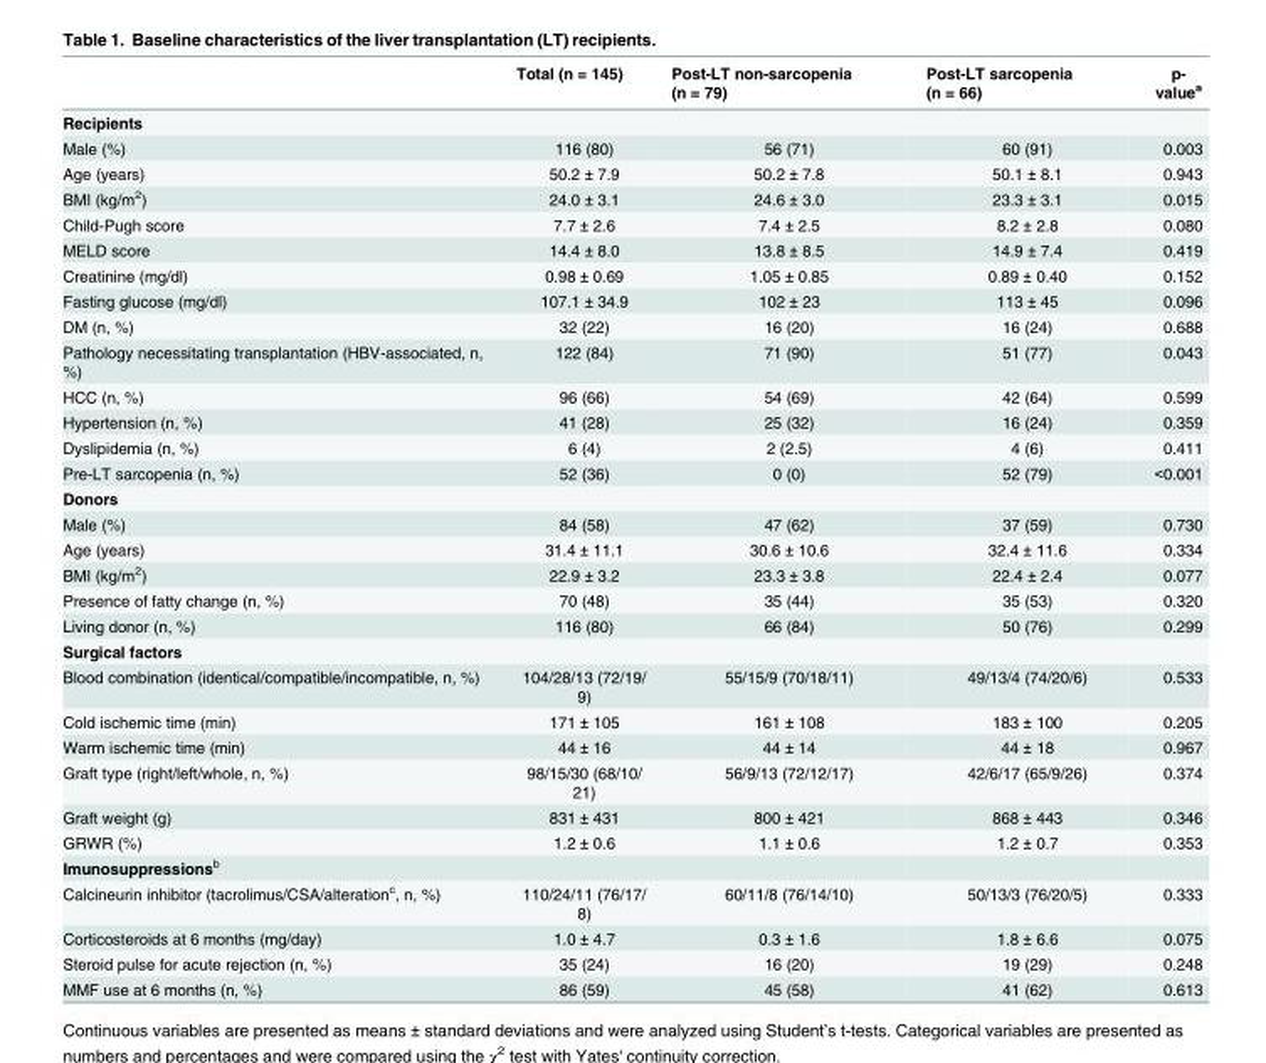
<table><thead><tr><td></td><td>Total (n = 145)</td><td>Post-LT non-sarcopenia (n = 79)</td><td>Post-LT sarcopenia (n = 66)</td><td>p- value<sup>a</sup></td></tr></thead><tbody><tr><td colspan="5">Recipients</td></tr><tr><td>Male (%)</td><td>116 (80)</td><td>56 (71)</td><td>60 (91)</td><td>0.003</td></tr><tr><td>Age (years)</td><td>50.2 ± 7.9</td><td>50.2 ± 7.8</td><td>50.1 ± 8.1</td><td>0.943</td></tr><tr><td>BMI (kg/m<sup>2</sup>)</td><td>24.0 ± 3.1</td><td>24.6 ± 3.0</td><td>23.3 ± 3.1</td><td>0.015</td></tr><tr><td>Child-Pugh score</td><td>7.7 ± 2.6</td><td>7.4 ± 2.5</td><td>8.2 ± 2.8</td><td>0.080</td></tr><tr><td>MELD score</td><td>14.4 ± 8.0</td><td>13.8 ± 8.5</td><td>14.9 ± 7.4</td><td>0.419</td></tr><tr><td>Creatinine (mg/dl)</td><td>0.98 ± 0.69</td><td>1.05 ± 0.85</td><td>0.89 ± 0.40</td><td>0.152</td></tr><tr><td>Fasting glucose (mg/dl)</td><td>107.1 ± 34.9</td><td>102 ± 23</td><td>113 ± 45</td><td>0.096</td></tr><tr><td>DM (n, %)</td><td>32 (22)</td><td>16 (20)</td><td>16 (24)</td><td>0.688</td></tr><tr><td>Pathology necessitating transplantation (HBV-associated, n, %)</td><td>122 (84)</td><td>71 (90)</td><td>51 (77)</td><td>0.043</td></tr><tr><td>HCC (n, %)</td><td>96 (66)</td><td>54 (69)</td><td>42 (64)</td><td>0.599</td></tr><tr><td>Hypertension (n, %)</td><td>41 (28)</td><td>25 (32)</td><td>16 (24)</td><td>0.359</td></tr><tr><td>Dyslipidemia (n, %)</td><td>6 (4)</td><td>2 (2.5)</td><td>4 (6)</td><td>0.411</td></tr><tr><td>Pre-LT sarcopenia (n, %)</td><td>52 (36)</td><td>0 (0)</td><td>52 (79)</td><td>&lt;0.001</td></tr><tr><td colspan="5">Donors</td></tr><tr><td>Male (%)</td><td>84 (58)</td><td>47 (62)</td><td>37 (59)</td><td>0.730</td></tr><tr><td>Age (years)</td><td>31.4 ± 11.1</td><td>30.6 ± 10.6</td><td>32.4 ± 11.6</td><td>0.334</td></tr><tr><td>BMI (kg/m<sup>2</sup>)</td><td>22.9 ± 3.2</td><td>23.3 ± 3.8</td><td>22.4 ± 2.4</td><td>0.077</td></tr><tr><td>Presence of fatty change (n, %)</td><td>70 (48)</td><td>35 (44)</td><td>35 (53)</td><td>0.320</td></tr><tr><td>Living donor (n, %)</td><td>116 (80)</td><td>66 (84)</td><td>50 (76)</td><td>0.299</td></tr><tr><td colspan="5">Surgical factors</td></tr><tr><td>Blood combination (identical/compatible/incompatible, n, %)</td><td>104/28/13 (72/19/ 9)</td><td>55/15/9 (70/18/11)</td><td>49/13/4 (74/20/6)</td><td>0.533</td></tr><tr><td>Cold ischemic time (min)</td><td>171 ± 105</td><td>161 ± 108</td><td>183 ± 100</td><td>0.205</td></tr><tr><td>Warm ischemic time (min)</td><td>44 ± 16</td><td>44 ± 14</td><td>44 ± 18</td><td>0.967</td></tr><tr><td>Graft type (right/left/whole, n, %)</td><td>98/15/30 (68/10/ 21)</td><td>56/9/13 (72/12/17)</td><td>42/6/17 (65/9/26)</td><td>0.374</td></tr><tr><td>Graft weight (g)</td><td>831 ± 431</td><td>800 ± 421</td><td>868 ± 443</td><td>0.346</td></tr><tr><td>GRWR (%)</td><td>1.2 ± 0.6</td><td>1.1 ± 0.6</td><td>1.2 ± 0.7</td><td>0.353</td></tr><tr><td colspan="5">Imunosuppressions<sup>b</sup></td></tr><tr><td>Calcineurin inhibitor (tacrolimus/CSA/alteration<sup>c</sup>, n, %)</td><td>110/24/11 (76/17/ 8)</td><td>60/11/8 (76/14/10)</td><td>50/13/3 (76/20/5)</td><td>0.333</td></tr><tr><td>Corticosteroids at 6 months (mg/day)</td><td>1.0 ± 4.7</td><td>0.3 ± 1.6</td><td>1.8 ± 6.6</td><td>0.075</td></tr><tr><td>Steroid pulse for acute rejection (n, %)</td><td>35 (24)</td><td>16 (20)</td><td>19 (29)</td><td>0.248</td></tr><tr><td>MMF use at 6 months (n, %)</td><td>86 (59)</td><td>45 (58)</td><td>41 (62)</td><td>0.613</td></tr></tbody></table>